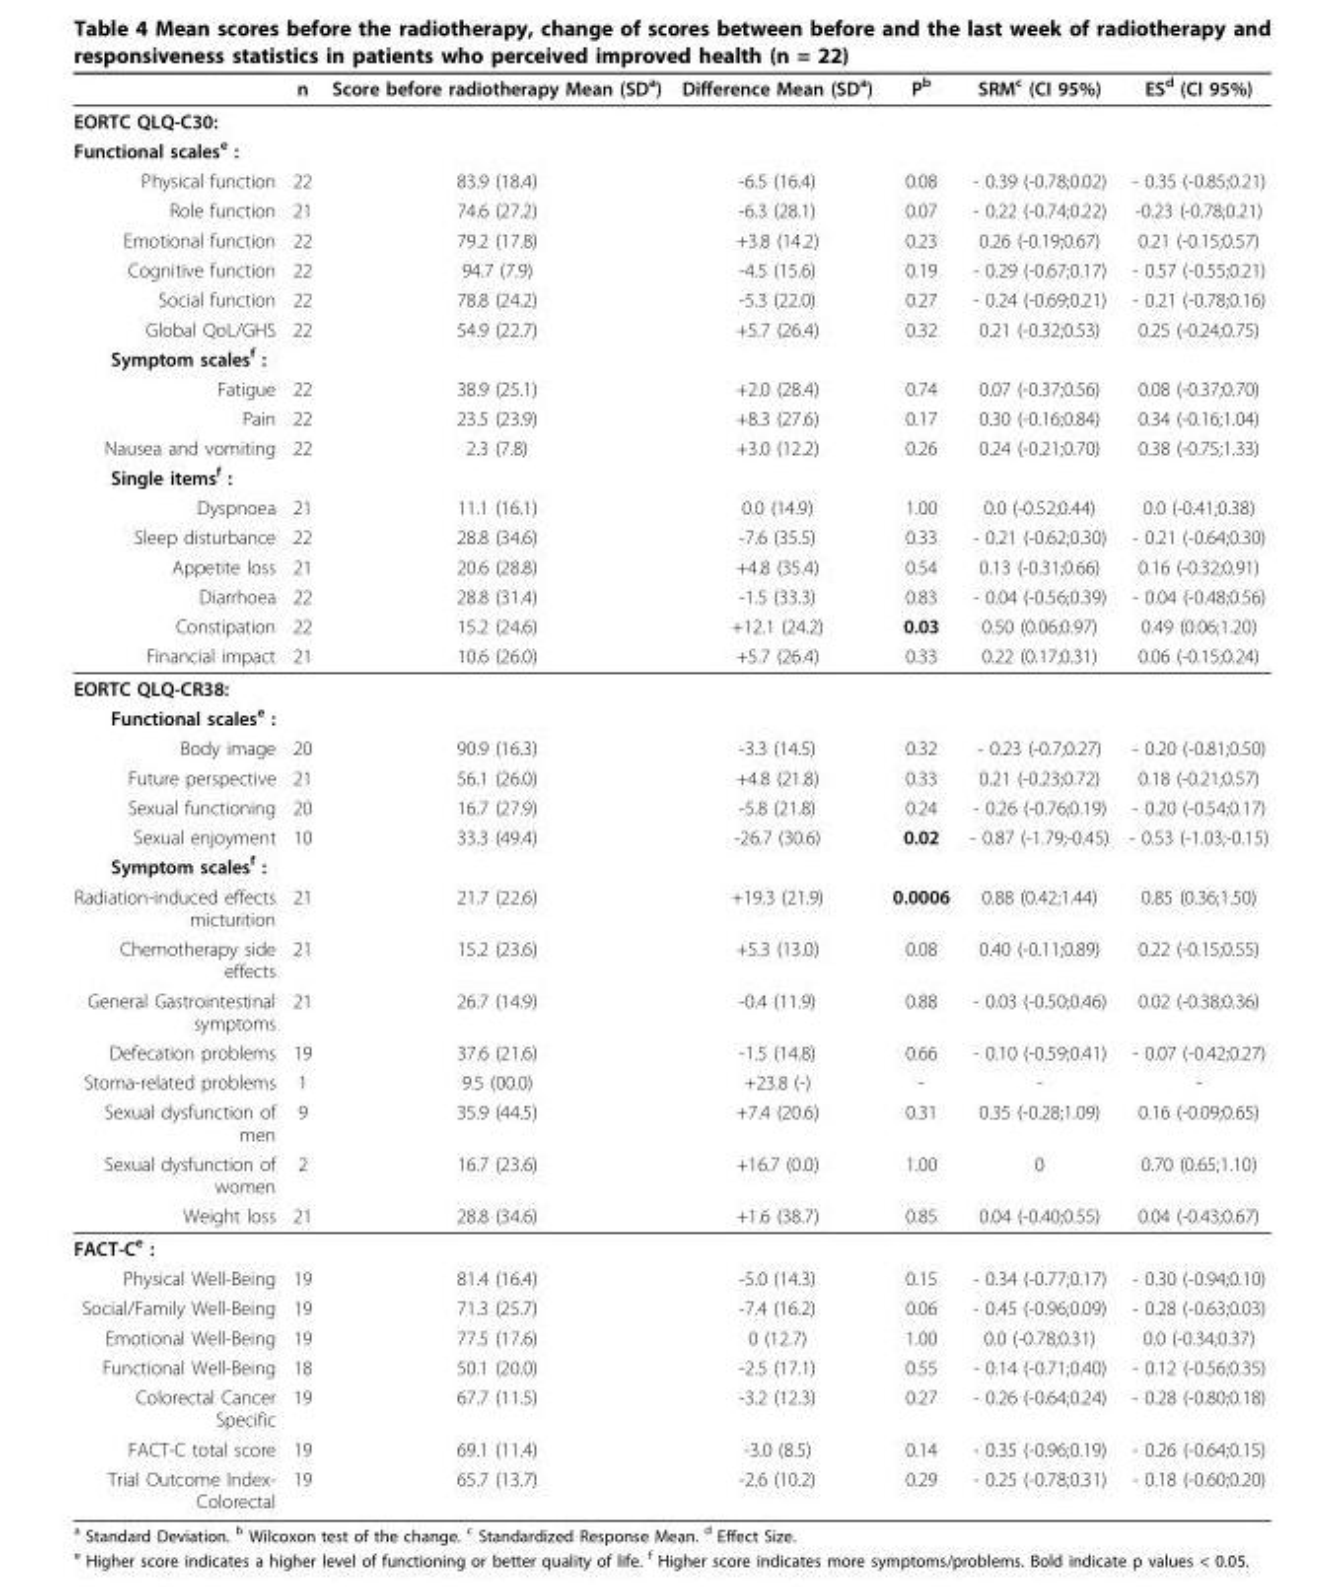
<table><thead><tr><td></td><td>n</td><td>Score before radiotherapy Mean (SD<sup>a</sup>)</td><td>Difference Mean (SD<sup>a</sup>)</td><td>P<sup>b</sup></td><td>SRM<sup>c</sup> (CI 95%)</td><td>ES<sup>d</sup> (CI 95%)</td></tr></thead><tbody><tr><td colspan="7">EORTC QLQ-C30:</td></tr><tr><td colspan="7">Functional scales<sup>e</sup> :</td></tr><tr><td>Physical function</td><td>22</td><td>83.9 (18.4)</td><td>-6.5 (16.4)</td><td>0.08</td><td>- 0.39 (-0.78;0.02)</td><td>- 0.35 (-0.85;0.21)</td></tr><tr><td>Role function</td><td>21</td><td>74.6 (27.2)</td><td>-6.3 (28.1)</td><td>0.07</td><td>- 0.22 (-0.74;0.22)</td><td>-0.23 (-0.78;0.21)</td></tr><tr><td>Emotional function</td><td>22</td><td>79.2 (17.8)</td><td>+3.8 (14.2)</td><td>0.23</td><td>0.26 (-0.19;0.67)</td><td>0.21 (-0.15;0.57)</td></tr><tr><td>Cognitive function</td><td>22</td><td>94.7 (7.9)</td><td>-4.5 (15.6)</td><td>0.19</td><td>- 0.29 (-0.67;0.17)</td><td>- 0.57 (-0.55;0.21)</td></tr><tr><td>Social function</td><td>22</td><td>78.8 (24.2)</td><td>-5.3 (22.0)</td><td>0.27</td><td>- 0.24 (-0.69;0.21)</td><td>- 0.21 (-0.78;0.16)</td></tr><tr><td>Global QoL/GHS</td><td>22</td><td>54.9 (22.7)</td><td>+5.7 (26.4)</td><td>0.32</td><td>0.21 (-0.32;0.53)</td><td>0.25 (-0.24;0.75)</td></tr><tr><td colspan="7">Symptom scales<sup>f</sup> :</td></tr><tr><td>Fatigue</td><td>22</td><td>38.9 (25.1)</td><td>+2.0 (28.4)</td><td>0.74</td><td>0.07 (-0.37;0.56)</td><td>0.08 (-0.37;0.70)</td></tr><tr><td>Pain</td><td>22</td><td>23.5 (23.9)</td><td>+8.3 (27.6)</td><td>0.17</td><td>0.30 (-0.16;0.84)</td><td>0.34 (-0.16;1.04)</td></tr><tr><td>Nausea and vomiting</td><td>22</td><td>2.3 (7.8)</td><td>+3.0 (12.2)</td><td>0.26</td><td>0.24 (-0.21;0.70)</td><td>0.38 (-0.75;1.33)</td></tr><tr><td colspan="7">Single items<sup>f</sup> :</td></tr><tr><td>Dyspnoea</td><td>21</td><td>11.1 (16.1)</td><td>0.0 (14.9)</td><td>1.00</td><td>0.0 (-0.52;0.44)</td><td>0.0 (-0.41;0.38)</td></tr><tr><td>Sleep disturbance</td><td>22</td><td>28.8 (34.6)</td><td>-7.6 (35.5)</td><td>0.33</td><td>- 0.21 (-0.62;0.30)</td><td>- 0.21 (-0.64;0.30)</td></tr><tr><td>Appetite loss</td><td>21</td><td>20.6 (28.8)</td><td>+4.8 (35.4)</td><td>0.54</td><td>0.13 (-0.31;0.66)</td><td>0.16 (-0.32;0.91)</td></tr><tr><td>Diarrhoea</td><td>22</td><td>28.8 (31.4)</td><td>-1.5 (33.3)</td><td>0.83</td><td>- 0.04 (-0.56;0.39)</td><td>- 0.04 (-0.48;0.56)</td></tr><tr><td>Constipation</td><td>22</td><td>15.2 (24.6)</td><td>+12.1 (24.2)</td><td>0.03</td><td>0.50 (0.06;0.97)</td><td>0.49 (0.06;1.20)</td></tr><tr><td>Financial impact</td><td>21</td><td>10.6 (26.0)</td><td>+5.7 (26.4)</td><td>0.33</td><td>0.22 (0.17;0.31)</td><td>0.06 (-0.15;0.24)</td></tr><tr><td colspan="7">EORTC QLQ-CR38:</td></tr><tr><td colspan="7">Functional scales<sup>e</sup> :</td></tr><tr><td>Body image</td><td>20</td><td>90.9 (16.3)</td><td>-3.3 (14.5)</td><td>0.32</td><td>- 0.23 (-0.7;0.27)</td><td>- 0.20 (-0.81;0.50)</td></tr><tr><td>Future perspective</td><td>21</td><td>56.1 (26.0)</td><td>+4.8 (21.8)</td><td>0.33</td><td>0.21 (-0.23;0.72)</td><td>0.18 (-0.21;0.57)</td></tr><tr><td>Sexual functioning</td><td>20</td><td>16.7 (27.9)</td><td>-5.8 (21.8)</td><td>0.24</td><td>- 0.26 (-0.76;0.19)</td><td>- 0.20 (-0.54;0.17)</td></tr><tr><td>Sexual enjoyment</td><td>10</td><td>33.3 (49.4)</td><td>-26.7 (30.6)</td><td>0.02</td><td>- 0.87 (-1.79;-0.45)</td><td>- 0.53 (-1.03;-0.15)</td></tr><tr><td colspan="7">Symptom scales<sup>f</sup> :</td></tr><tr><td>Radiation-induced effects micturition</td><td>21</td><td>21.7 (22.6)</td><td>+19.3 (21.9)</td><td>0.0006</td><td>0.88 (0.42;1.44)</td><td>0.85 (0.36;1.50)</td></tr><tr><td>Chemotherapy side effects</td><td>21</td><td>15.2 (23.6)</td><td>+5.3 (13.0)</td><td>0.08</td><td>0.40 (-0.11;0.89)</td><td>0.22 (-0.15;0.55)</td></tr><tr><td>General Gastrointestinal symptoms</td><td>21</td><td>26.7 (14.9)</td><td>-0.4 (11.9)</td><td>0.88</td><td>- 0.03 (-0.50;0.46)</td><td>0.02 (-0.38;0.36)</td></tr><tr><td>Defecation problems</td><td>19</td><td>37.6 (21.6)</td><td>-1.5 (14.8)</td><td>0.66</td><td>- 0.10 (-0.59;0.41)</td><td>- 0.07 (-0.42;0.27)</td></tr><tr><td>Stoma-related problems</td><td>1</td><td>9.5 (00.0)</td><td>+23.8 (-)</td><td>-</td><td>-</td><td>-</td></tr><tr><td>Sexual dysfunction of men</td><td>9</td><td>35.9 (44.5)</td><td>+7.4 (20.6)</td><td>0.31</td><td>0.35 (-0.28;1.09)</td><td>0.16 (-0.09;0.65)</td></tr><tr><td>Sexual dysfunction of women</td><td>2</td><td>16.7 (23.6)</td><td>+16.7 (0.0)</td><td>1.00</td><td>0</td><td>0.70 (0.65;1.10)</td></tr><tr><td>Weight loss</td><td>21</td><td>28.8 (34.6)</td><td>+1.6 (38.7)</td><td>0.85</td><td>0.04 (-0.40;0.55)</td><td>0.04 (-0.43;0.67)</td></tr><tr><td colspan="7">FACT-C<sup>e</sup> :</td></tr><tr><td>Physical Well-Being</td><td>19</td><td>81.4 (16.4)</td><td>-5.0 (14.3)</td><td>0.15</td><td>- 0.34 (-0.77;0.17)</td><td>- 0.30 (-0.94;0.10)</td></tr><tr><td>Social/Family Well-Being</td><td>19</td><td>71.3 (25.7)</td><td>-7.4 (16.2)</td><td>0.06</td><td>- 0.45 (-0.96;0.09)</td><td>- 0.28 (-0.63;0.03)</td></tr><tr><td>Emotional Well-Being</td><td>19</td><td>77.5 (17.6)</td><td>0 (12.7)</td><td>1.00</td><td>0.0 (-0.78;0.31)</td><td>0.0 (-0.34;0.37)</td></tr><tr><td>Functional Well-Being</td><td>18</td><td>50.1 (20.0)</td><td>-2.5 (17.1)</td><td>0.55</td><td>- 0.14 (-0.71;0.40)</td><td>- 0.12 (-0.56;0.35)</td></tr><tr><td>Colorectal Cancer Specific</td><td>19</td><td>67.7 (11.5)</td><td>-3.2 (12.3)</td><td>0.27</td><td>- 0.26 (-0.64;0.24)</td><td>- 0.28 (-0.80;0.18)</td></tr><tr><td>FACT-C total score</td><td>19</td><td>69.1 (11.4)</td><td>-3.0 (8.5)</td><td>0.14</td><td>- 0.35 (-0.96;0.19)</td><td>- 0.26 (-0.64;0.15)</td></tr><tr><td>Trial Outcome Index- Colorectal</td><td>19</td><td>65.7 (13.7)</td><td>-2.6 (10.2)</td><td>0.29</td><td>- 0.25 (-0.78;0.31)</td><td>- 0.18 (-0.60;0.20)</td></tr></tbody></table>